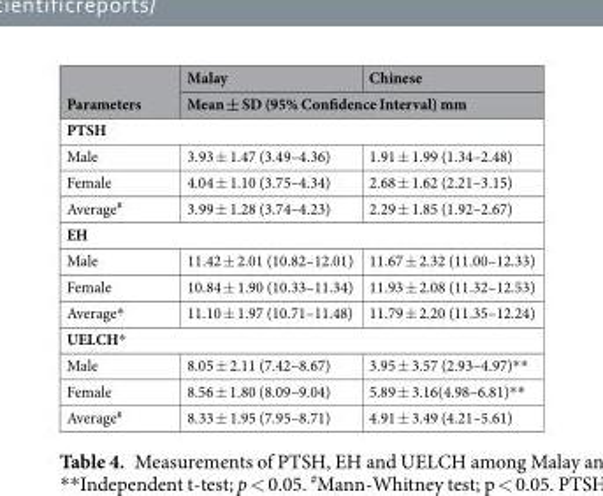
<table><thead><tr><td rowspan="2">Parameters</td><td>Malay</td><td>Chinese</td></tr><tr><td colspan="2">Mean ± SD (95% Confidence Interval) mm</td></tr></thead><tbody><tr><td colspan="3">PTSH</td></tr><tr><td>Male</td><td>3.93 ± 1.47 (3.49–4.36)</td><td>1.91 ± 1.99 (1.34–2.48)</td></tr><tr><td>Female</td><td>4.04 ± 1.10 (3.75–4.34)</td><td>2.68 ± 1.62 (2.21–3.15)</td></tr><tr><td>Average<sup>#</sup></td><td>3.99 ± 1.28 (3.74–4.23)</td><td>2.29 ± 1.85 (1.92–2.67)</td></tr><tr><td colspan="3">EH</td></tr><tr><td>Male</td><td>11.42 ± 2.01 (10.82–12.01)</td><td>11.67 ± 2.32 (11.00–12.33)</td></tr><tr><td>Female</td><td>10.84 ± 1.90 (10.33–11.34)</td><td>11.93 ± 2.08 (11.32–12.53)</td></tr><tr><td>Average*</td><td>11.10 ± 1.97 (10.71–11.48)</td><td>11.79 ± 2.20 (11.35–12.24)</td></tr><tr><td colspan="3">UELCH*</td></tr><tr><td>Male</td><td>8.05 ± 2.11 (7.42–8.67)</td><td>3.95 ± 3.57 (2.93–4.97)**</td></tr><tr><td>Female</td><td>8.56 ± 1.80 (8.09–9.04)</td><td>5.89 ± 3.16(4.98–6.81)**</td></tr><tr><td>Average<sup>#</sup></td><td>8.33 ± 1.95 (7.95–8.71)</td><td>4.91 ± 3.49 (4.21–5.61)</td></tr></tbody></table>